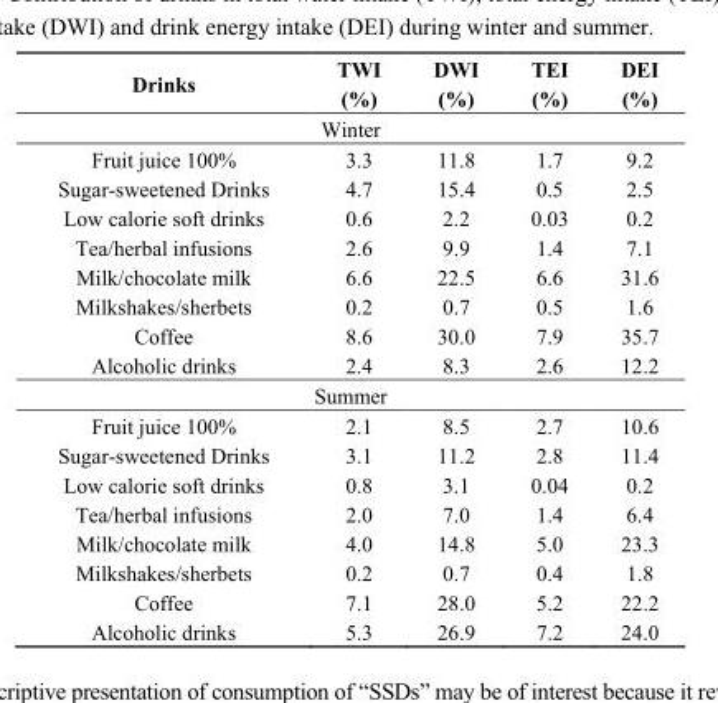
<table><thead><tr><td>Drinks</td><td>TWI (%)</td><td>DWI (%)</td><td>TEI (%)</td><td>DEI (%)</td></tr></thead><tbody><tr><td colspan="5">Winter</td></tr><tr><td>Fruit juice 100%</td><td>3.3</td><td>11.8</td><td>1.7</td><td>9.2</td></tr><tr><td>Sugar-sweetened Drinks</td><td>4.7</td><td>15.4</td><td>0.5</td><td>2.5</td></tr><tr><td>Low calorie soft drinks</td><td>0.6</td><td>2.2</td><td>0.03</td><td>0.2</td></tr><tr><td>Tea/herbal infusions</td><td>2.6</td><td>9.9</td><td>1.4</td><td>7.1</td></tr><tr><td>Milk/chocolate milk</td><td>6.6</td><td>22.5</td><td>6.6</td><td>31.6</td></tr><tr><td>Milkshakes/sherbets</td><td>0.2</td><td>0.7</td><td>0.5</td><td>1.6</td></tr><tr><td>Coffee</td><td>8.6</td><td>30.0</td><td>7.9</td><td>35.7</td></tr><tr><td>Alcoholic drinks</td><td>2.4</td><td>8.3</td><td>2.6</td><td>12.2</td></tr><tr><td colspan="5">Summer</td></tr><tr><td>Fruit juice 100%</td><td>2.1</td><td>8.5</td><td>2.7</td><td>10.6</td></tr><tr><td>Sugar-sweetened Drinks</td><td>3.1</td><td>11.2</td><td>2.8</td><td>11.4</td></tr><tr><td>Low calorie soft drinks</td><td>0.8</td><td>3.1</td><td>0.04</td><td>0.2</td></tr><tr><td>Tea/herbal infusions</td><td>2.0</td><td>7.0</td><td>1.4</td><td>6.4</td></tr><tr><td>Milk/chocolate milk</td><td>4.0</td><td>14.8</td><td>5.0</td><td>23.3</td></tr><tr><td>Milkshakes/sherbets</td><td>0.2</td><td>0.7</td><td>0.4</td><td>1.8</td></tr><tr><td>Coffee</td><td>7.1</td><td>28.0</td><td>5.2</td><td>22.2</td></tr><tr><td>Alcoholic drinks</td><td>5.3</td><td>26.9</td><td>7.2</td><td>24.0</td></tr></tbody></table>